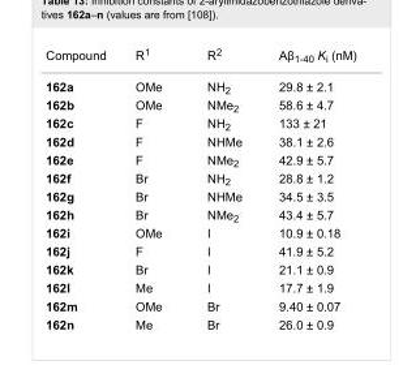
<table><tbody><tr><td>Compound</td><td>R<sup>1</sup></td><td>R<sup>2</sup></td><td>Aβ<sub>1-40</sub> K<sub>i</sub> (nM)</td></tr><tr><td>162a</td><td>OMe</td><td>NH<sub>2</sub></td><td>29.8 ± 2.1</td></tr><tr><td>162b</td><td>OMe</td><td>NMe<sub>2</sub></td><td>58.6 ± 4.7</td></tr><tr><td>162c</td><td>F</td><td>NH<sub>2</sub></td><td>133 ± 21</td></tr><tr><td>162d</td><td>F</td><td>NHMe</td><td>38.1 ± 2.6</td></tr><tr><td>162e</td><td>F</td><td>NMe<sub>2</sub></td><td>42.9 ± 5.7</td></tr><tr><td>162f</td><td>Br</td><td>NH<sub>2</sub></td><td>28.8 ± 1.2</td></tr><tr><td>162g</td><td>Br</td><td>NHMe</td><td>34.5 ± 3.5</td></tr><tr><td>162h</td><td>Br</td><td>NMe<sub>2</sub></td><td>43.4 ± 5.7</td></tr><tr><td>162i</td><td>OMe</td><td>I</td><td>10.9 ± 0.18</td></tr><tr><td>162j</td><td>F</td><td>I</td><td>41.9 ± 5.2</td></tr><tr><td>162k</td><td>Br</td><td>I</td><td>21.1 ± 0.9</td></tr><tr><td>162l</td><td>Me</td><td>I</td><td>17.7 ± 1.9</td></tr><tr><td>162m</td><td>OMe</td><td>Br</td><td>9.40 ± 0.07</td></tr><tr><td>162n</td><td>Me</td><td>Br</td><td>26.0 ± 0.9</td></tr></tbody></table>